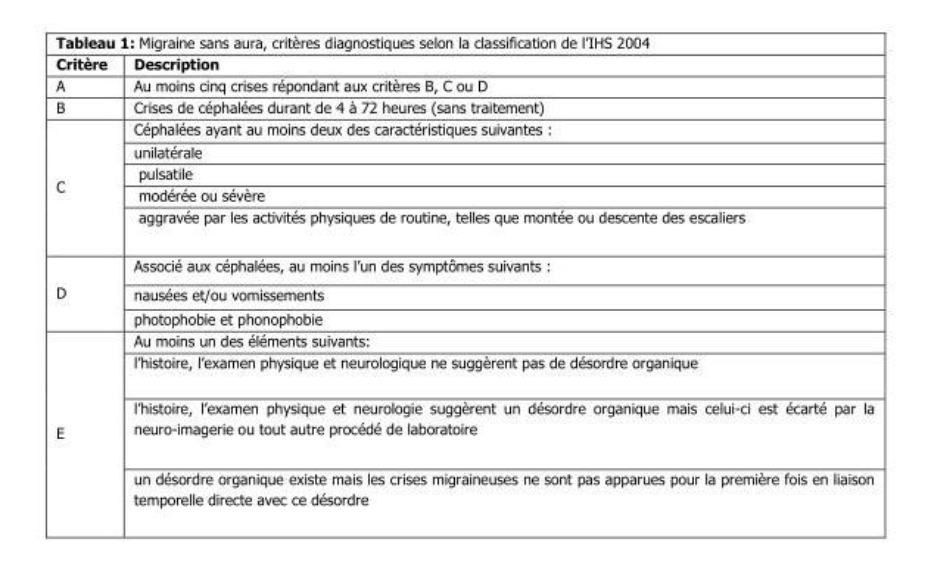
<table><thead><tr><td>Critère</td><td>Description</td></tr></thead><tbody><tr><td>A</td><td>Au moins cinq crises répondant aux critères B, C ou D</td></tr><tr><td>B</td><td>Crises de céphalées durant de 4 à 72 heures (sans traitement)</td></tr><tr><td rowspan="5">C</td><td>Céphalées ayant au moins deux des caractéristiques suivantes :</td></tr><tr><td>unilatérale</td></tr><tr><td>pulsatile</td></tr><tr><td>modérée ou sévère</td></tr><tr><td>aggravée par les activités physiques de routine, telles que montée ou descente des escaliers</td></tr><tr><td rowspan="3">D</td><td>Associé aux céphalées, au moins l’un des symptômes suivants :</td></tr><tr><td>nausées et/ou vomissements</td></tr><tr><td>photophobie et phonophobie</td></tr><tr><td rowspan="4">E</td><td>Au moins un des éléments suivants:</td></tr><tr><td>l’histoire, l’examen physique et neurologique ne suggèrent pas de désordre organique</td></tr><tr><td>l’histoire, l’examen physique et neurologie suggèrent un désordre organique mais celui-ci est écarté par la neuro-imagerie ou tout autre procédé de laboratoire</td></tr><tr><td>un désordre organique existe mais les crises migraineuses ne sont pas apparues pour la première fois en liaison temporelle directe avec ce désordre</td></tr></tbody></table>